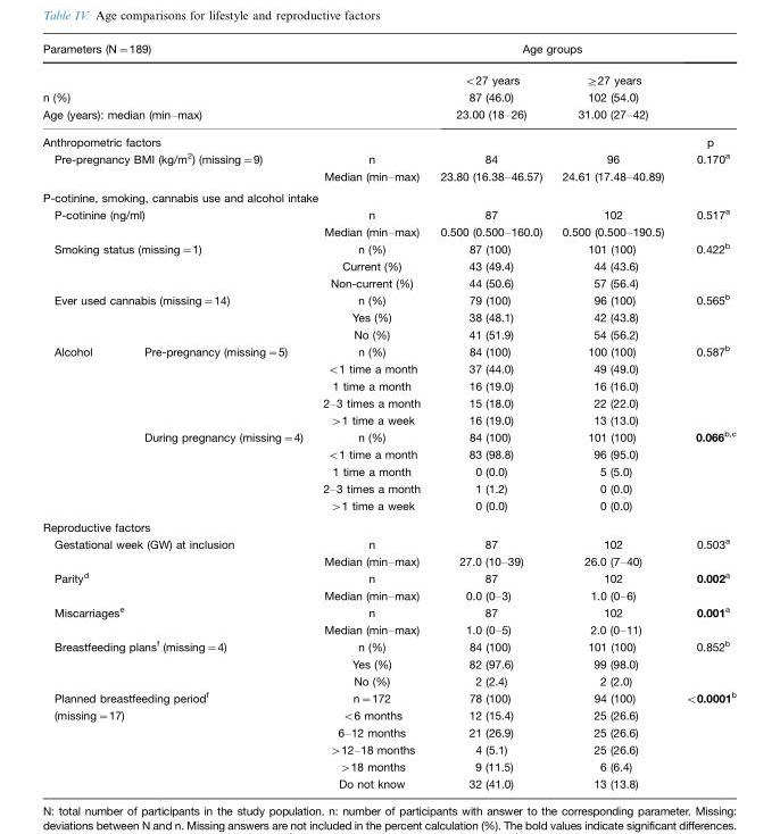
<table><thead><tr><td colspan="3">Parameters (N=189)</td><td colspan="2">Age groups</td><td rowspan="4"></td></tr><tr><td></td><td></td><td></td><td rowspan="3">&lt;27 years 87 (46.0) 23.00 (18–26)</td><td rowspan="3">≥27 years 102 (54.0) 31.00 (27–42)</td></tr><tr><td rowspan="2" colspan="3">n (%) Age (years): median (min–max)</td></tr><tr></tr></thead><tbody><tr><td colspan="3">Anthropometric factors</td><td></td><td></td><td>p</td></tr><tr><td colspan="2">Pre-pregnancy BMI (kg/m<sup>2</sup>) (missing=9)</td><td>n</td><td>84</td><td>96</td><td>0.170<sup>a</sup></td></tr><tr><td></td><td></td><td>Median (min–max)</td><td>23.80 (16.38–46.57)</td><td>24.61 (17.48–40.89)</td><td></td></tr><tr><td colspan="6">P-cotinine, smoking, cannabis use and alcohol intake</td></tr><tr><td colspan="2">P-cotinine (ng/ml)</td><td>n</td><td>87</td><td>102</td><td>0.517<sup>a</sup></td></tr><tr><td></td><td></td><td>Median (min–max)</td><td>0.500 (0.500–160.0)</td><td>0.500 (0.500–190.5)</td><td></td></tr><tr><td colspan="2">Smoking status (missing=1)</td><td>n (%)</td><td>87 (100)</td><td>101 (100)</td><td>0.422<sup>b</sup></td></tr><tr><td></td><td></td><td>Current (%)</td><td>43 (49.4)</td><td>44 (43.6)</td><td></td></tr><tr><td></td><td></td><td>Non-current (%)</td><td>44 (50.6)</td><td>57 (56.4)</td><td></td></tr><tr><td colspan="2">Ever used cannabis (missing=14)</td><td>n (%)</td><td>79 (100)</td><td>96 (100)</td><td>0.565<sup>b</sup></td></tr><tr><td></td><td></td><td>Yes (%)</td><td>38 (48.1)</td><td>42 (43.8)</td><td></td></tr><tr><td></td><td></td><td>No (%)</td><td>41 (51.9)</td><td>54 (56.2)</td><td></td></tr><tr><td rowspan="10">Alcohol</td><td>Pre-pregnancy (missing=5)</td><td>n (%)</td><td>84 (100)</td><td>100 (100)</td><td>0.587<sup>b</sup></td></tr><tr><td></td><td>&lt;1 time a month</td><td>37 (44.0)</td><td>49 (49.0)</td><td></td></tr><tr><td></td><td>1 time a month</td><td>16 (19.0)</td><td>16 (16.0)</td><td></td></tr><tr><td></td><td>2–3 times a month</td><td>15 (18.0)</td><td>22 (22.0)</td><td></td></tr><tr><td></td><td>&gt;1 time a week</td><td>16 (19.0)</td><td>13 (13.0)</td><td></td></tr><tr><td>During pregnancy (missing=4)</td><td>n (%)</td><td>84 (100)</td><td>101 (100)</td><td>0.066b,c</td></tr><tr><td></td><td>&lt;1 time a month</td><td>83 (98.8)</td><td>96 (95.0)</td><td></td></tr><tr><td></td><td>1 time a month</td><td>0 (0.0)</td><td>5 (5.0)</td><td></td></tr><tr><td></td><td>2–3 times a month</td><td>1 (1.2)</td><td>0 (0.0)</td><td></td></tr><tr><td></td><td>&gt;1 time a week</td><td>0 (0.0)</td><td>0 (0.0)</td><td></td></tr><tr><td colspan="6">Reproductive factors</td></tr><tr><td colspan="2">Gestational week (GW) at inclusion</td><td>n</td><td>87</td><td>102</td><td>0.503<sup>a</sup></td></tr><tr><td></td><td></td><td>Median (min–max)</td><td>27.0 (10–39)</td><td>26.0 (7–40)</td><td></td></tr><tr><td colspan="2">Parity<sup>d</sup></td><td>n</td><td>87</td><td>102</td><td>0.002a</td></tr><tr><td></td><td></td><td>Median (min–max)</td><td>0.0 (0–3)</td><td>1.0 (0–6)</td><td></td></tr><tr><td colspan="2">Miscarriages<sup>e</sup></td><td>n</td><td>87</td><td>102</td><td>0.001a</td></tr><tr><td></td><td></td><td>Median (min–max)</td><td>1.0 (0–5)</td><td>2.0 (0–11)</td><td></td></tr><tr><td colspan="2">Breastfeeding plans<sup>f</sup> (missing=4)</td><td>n (%)</td><td>84 (100)</td><td>101 (100)</td><td>0.852<sup>b</sup></td></tr><tr><td></td><td></td><td>Yes (%)</td><td>82 (97.6)</td><td>99 (98.0)</td><td></td></tr><tr><td></td><td></td><td>No (%)</td><td>2 (2.4)</td><td>2 (2.0)</td><td></td></tr><tr><td colspan="2">Planned breastfeeding period<sup>f</sup></td><td>n=172</td><td>78 (100)</td><td>94 (100)</td><td>&lt;0.0001b</td></tr><tr><td rowspan="5">(missing=17)</td><td></td><td>&lt;6 months</td><td>12 (15.4)</td><td>25 (26.6)</td><td></td></tr><tr><td></td><td>6–12 months</td><td>21 (26.9)</td><td>25 (26.6)</td><td></td></tr><tr><td></td><td>&gt;12–18 months</td><td>4 (5.1)</td><td>25 (26.6)</td><td></td></tr><tr><td></td><td>&gt;18 months</td><td>9 (11.5)</td><td>6 (6.4)</td><td></td></tr><tr><td></td><td>Do not know</td><td>32 (41.0)</td><td>13 (13.8)</td><td></td></tr></tbody></table>